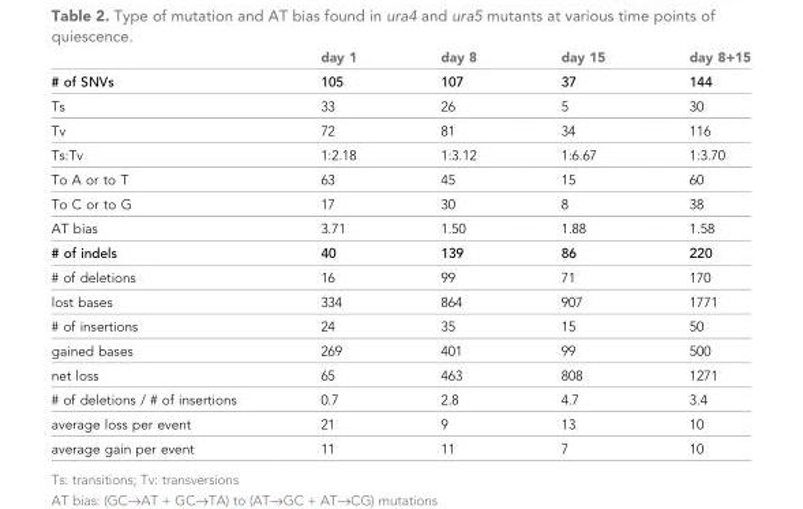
<table><thead><tr><td></td><td>day 1</td><td>day 8</td><td>day 15</td><td>day 8+15</td></tr></thead><tbody><tr><td># of SNVs</td><td>105</td><td>107</td><td>37</td><td>144</td></tr><tr><td>Ts</td><td>33</td><td>26</td><td>5</td><td>30</td></tr><tr><td>Tv</td><td>72</td><td>81</td><td>34</td><td>116</td></tr><tr><td>Ts:Tv</td><td>1:2.18</td><td>1:3.12</td><td>1:6.67</td><td>1:3.70</td></tr><tr><td>To A or to T</td><td>63</td><td>45</td><td>15</td><td>60</td></tr><tr><td>To C or to G</td><td>17</td><td>30</td><td>8</td><td>38</td></tr><tr><td>AT bias</td><td>3.71</td><td>1.50</td><td>1.88</td><td>1.58</td></tr><tr><td># of indels</td><td>40</td><td>139</td><td>86</td><td>220</td></tr><tr><td># of deletions</td><td>16</td><td>99</td><td>71</td><td>170</td></tr><tr><td>lost bases</td><td>334</td><td>864</td><td>907</td><td>1771</td></tr><tr><td># of insertions</td><td>24</td><td>35</td><td>15</td><td>50</td></tr><tr><td>gained bases</td><td>269</td><td>401</td><td>99</td><td>500</td></tr><tr><td>net loss</td><td>65</td><td>463</td><td>808</td><td>1271</td></tr><tr><td># of deletions / # of insertions</td><td>0.7</td><td>2.8</td><td>4.7</td><td>3.4</td></tr><tr><td>average loss per event</td><td>21</td><td>9</td><td>13</td><td>10</td></tr><tr><td>average gain per event</td><td>11</td><td>11</td><td>7</td><td>10</td></tr></tbody></table>